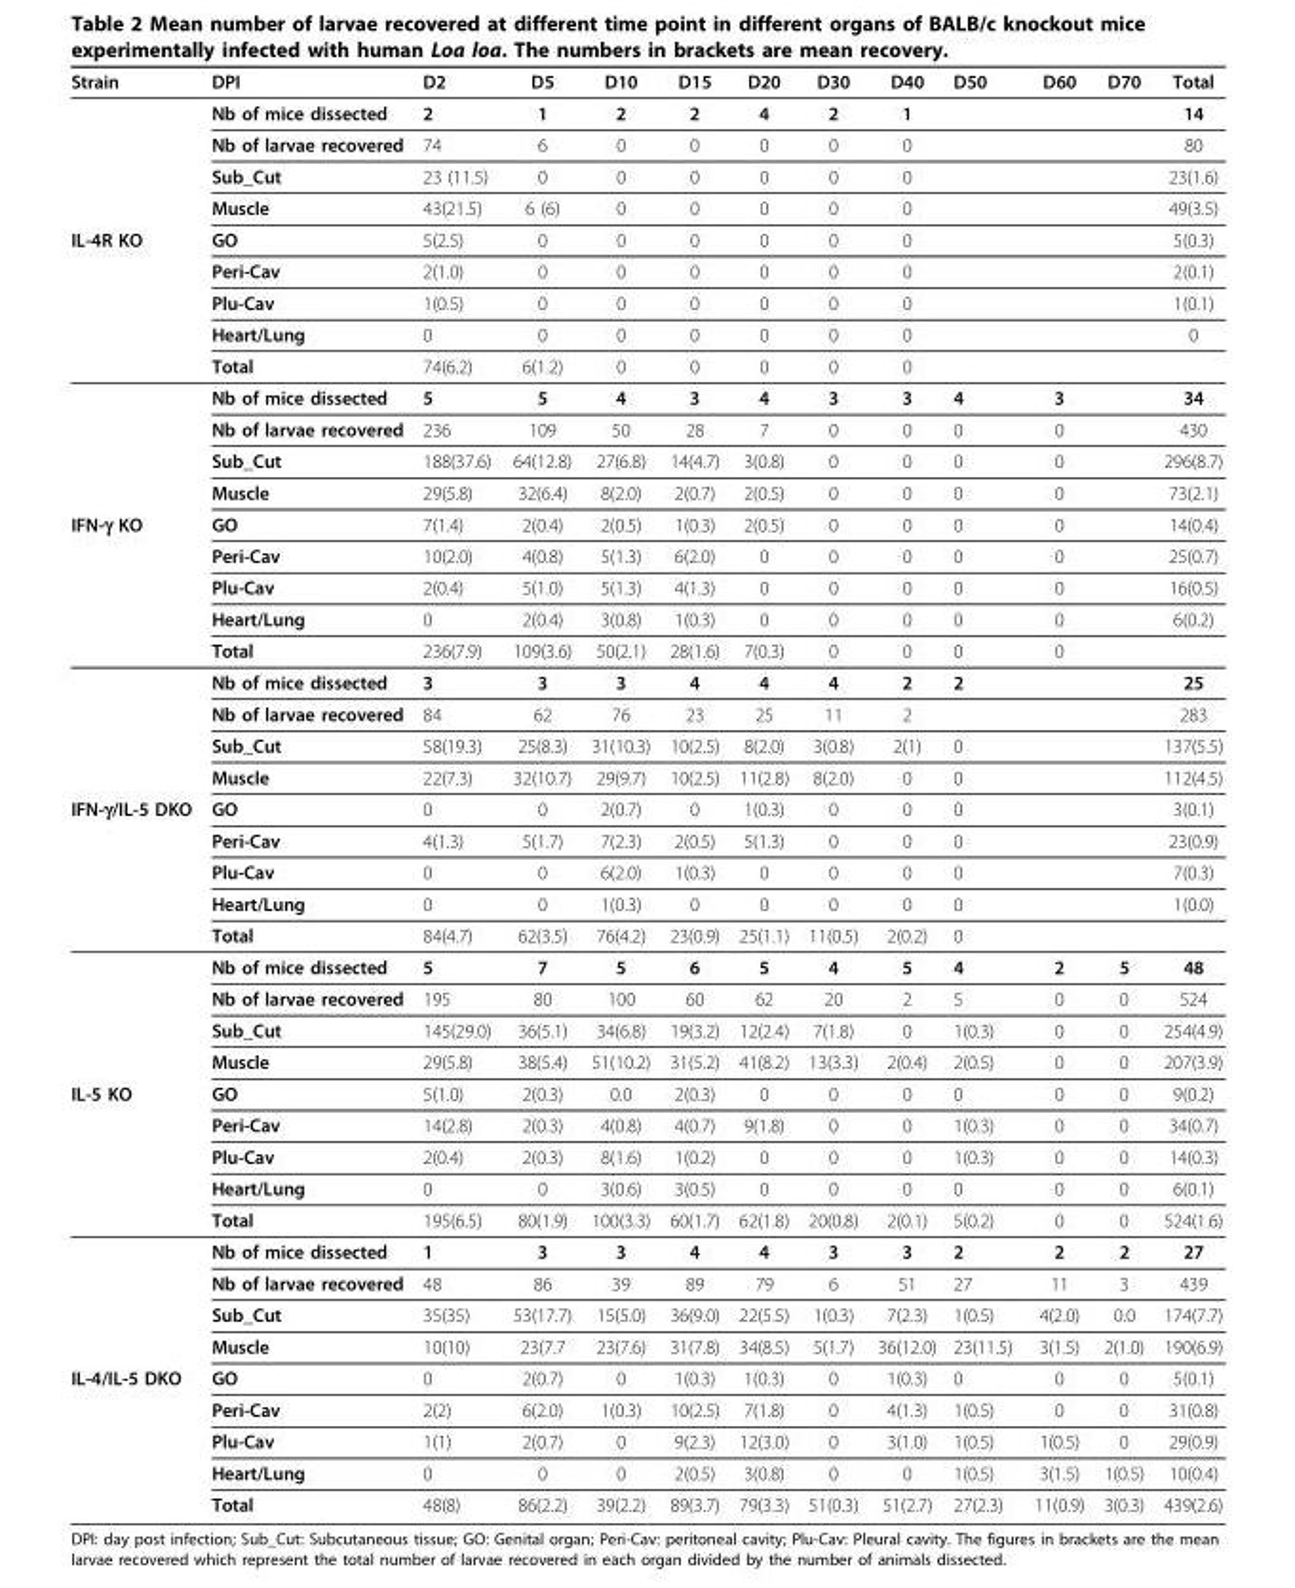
<table><thead><tr><td>Strain</td><td>DPI</td><td>D2</td><td>D5</td><td>D10</td><td>D15</td><td>D20</td><td>D30</td><td>D40</td><td>D50</td><td>D60</td><td>D70</td><td>Total</td></tr></thead><tbody><tr><td></td><td>Nb of mice dissected</td><td>2</td><td>1</td><td>2</td><td>2</td><td>4</td><td>2</td><td>1</td><td></td><td></td><td></td><td>14</td></tr><tr><td></td><td>Nb of larvae recovered</td><td>74</td><td>6</td><td>0</td><td>0</td><td>0</td><td>0</td><td>0</td><td></td><td></td><td></td><td>80</td></tr><tr><td></td><td>Sub_Cut</td><td>23 (11.5)</td><td>0</td><td>0</td><td>0</td><td>0</td><td>0</td><td>0</td><td></td><td></td><td></td><td>23(1.6)</td></tr><tr><td></td><td>Muscle</td><td>43(21.5)</td><td>6 (6)</td><td>0</td><td>0</td><td>0</td><td>0</td><td>0</td><td></td><td></td><td></td><td>49(3.5)</td></tr><tr><td rowspan="9">IL-4R KO</td><td>GO</td><td>5(2.5)</td><td>0</td><td>0</td><td>0</td><td>0</td><td>0</td><td>0</td><td></td><td></td><td></td><td>5(0.3)</td></tr><tr><td>Peri-Cav</td><td>2(1.0)</td><td>0</td><td>0</td><td>0</td><td>0</td><td>0</td><td>0</td><td></td><td></td><td></td><td>2(0.1)</td></tr><tr><td>Plu-Cav</td><td>1(0.5)</td><td>0</td><td>0</td><td>0</td><td>0</td><td>0</td><td>0</td><td></td><td></td><td></td><td>1(0.1)</td></tr><tr><td>Heart/Lung</td><td>0</td><td>0</td><td>0</td><td>0</td><td>0</td><td>0</td><td>0</td><td></td><td></td><td></td><td>0</td></tr><tr><td>Total</td><td>74(6.2)</td><td>6(1.2)</td><td>0</td><td>0</td><td>0</td><td>0</td><td>0</td><td></td><td></td><td></td><td></td></tr><tr><td>Nb of mice dissected</td><td>5</td><td>5</td><td>4</td><td>3</td><td>4</td><td>3</td><td>3</td><td>4</td><td>3</td><td></td><td>34</td></tr><tr><td>Nb of larvae recovered</td><td>236</td><td>109</td><td>50</td><td>28</td><td>7</td><td>0</td><td>0</td><td>0</td><td>0</td><td></td><td>430</td></tr><tr><td>Sub_Cut</td><td>188(37.6)</td><td>64(12.8)</td><td>27(6.8)</td><td>14(4.7)</td><td>3(0.8)</td><td>0</td><td>0</td><td>0</td><td>0</td><td></td><td>296(8.7)</td></tr><tr><td>Muscle</td><td>29(5.8)</td><td>32(6.4)</td><td>8(2.0)</td><td>2(0.7)</td><td>2(0.5)</td><td>0</td><td>0</td><td>0</td><td>0</td><td></td><td>73(2.1)</td></tr><tr><td rowspan="9">IFN-γ KO</td><td>GO</td><td>7(1.4)</td><td>2(0.4)</td><td>2(0.5)</td><td>1(0.3)</td><td>2(0.5)</td><td>0</td><td>0</td><td>0</td><td>0</td><td></td><td>14(0.4)</td></tr><tr><td>Peri-Cav</td><td>10(2.0)</td><td>4(0.8)</td><td>5(1.3)</td><td>6(2.0)</td><td>0</td><td>0</td><td>0</td><td>0</td><td>0</td><td></td><td>25(0.7)</td></tr><tr><td>Plu-Cav</td><td>2(0.4)</td><td>5(1.0)</td><td>5(1.3)</td><td>4(1.3)</td><td>0</td><td>0</td><td>0</td><td>0</td><td>0</td><td></td><td>16(0.5)</td></tr><tr><td>Heart/Lung</td><td>0</td><td>2(0.4)</td><td>3(0.8)</td><td>1(0.3)</td><td>0</td><td>0</td><td>0</td><td>0</td><td>0</td><td></td><td>6(0.2)</td></tr><tr><td>Total</td><td>236(7.9)</td><td>109(3.6)</td><td>50(2.1)</td><td>28(1.6)</td><td>7(0.3)</td><td>0</td><td>0</td><td>0</td><td>0</td><td></td><td></td></tr><tr><td>Nb of mice dissected</td><td>3</td><td>3</td><td>3</td><td>4</td><td>4</td><td>4</td><td>2</td><td>2</td><td></td><td></td><td>25</td></tr><tr><td>Nb of larvae recovered</td><td>84</td><td>62</td><td>76</td><td>23</td><td>25</td><td>11</td><td>2</td><td></td><td></td><td></td><td>283</td></tr><tr><td>Sub_Cut</td><td>58(19.3)</td><td>25(8.3)</td><td>31(10.3)</td><td>10(2.5)</td><td>8(2.0)</td><td>3(0.8)</td><td>2(1)</td><td>0</td><td></td><td></td><td>137(5.5)</td></tr><tr><td>Muscle</td><td>22(7.3)</td><td>32(10.7)</td><td>29(9.7)</td><td>10(2.5)</td><td>11(2.8)</td><td>8(2.0)</td><td>0</td><td>0</td><td></td><td></td><td>112(4.5)</td></tr><tr><td rowspan="9">IFN-γ/IL-5 DKO</td><td>GO</td><td>0</td><td>0</td><td>2(0.7)</td><td>0</td><td>1(0.3)</td><td>0</td><td>0</td><td>0</td><td></td><td></td><td>3(0.1)</td></tr><tr><td>Peri-Cav</td><td>4(1.3)</td><td>5(1.7)</td><td>7(2.3)</td><td>2(0.5)</td><td>5(1.3)</td><td>0</td><td>0</td><td>0</td><td></td><td></td><td>23(0.9)</td></tr><tr><td>Plu-Cav</td><td>0</td><td>0</td><td>6(2.0)</td><td>1(0.3)</td><td>0</td><td>0</td><td>0</td><td>0</td><td></td><td></td><td>7(0.3)</td></tr><tr><td>Heart/Lung</td><td>0</td><td>0</td><td>1(0.3)</td><td>0</td><td>0</td><td>0</td><td>0</td><td>0</td><td></td><td></td><td>1(0.0)</td></tr><tr><td>Total</td><td>84(4.7)</td><td>62(3.5)</td><td>76(4.2)</td><td>23(0.9)</td><td>25(1.1)</td><td>11(0.5)</td><td>2(0.2)</td><td>0</td><td></td><td></td><td></td></tr><tr><td>Nb of mice dissected</td><td>5</td><td>7</td><td>5</td><td>6</td><td>5</td><td>4</td><td>5</td><td>4</td><td>2</td><td>5</td><td>48</td></tr><tr><td>Nb of larvae recovered</td><td>195</td><td>80</td><td>100</td><td>60</td><td>62</td><td>20</td><td>2</td><td>5</td><td>0</td><td>0</td><td>524</td></tr><tr><td>Sub_Cut</td><td>145(29.0)</td><td>36(5.1)</td><td>34(6.8)</td><td>19(3.2)</td><td>12(2.4)</td><td>7(1.8)</td><td>0</td><td>1(0.3)</td><td>0</td><td>0</td><td>254(4.9)</td></tr><tr><td>Muscle</td><td>29(5.8)</td><td>38(5.4)</td><td>51(10.2)</td><td>31(5.2)</td><td>41(8.2)</td><td>13(3.3)</td><td>2(0.4)</td><td>2(0.5)</td><td>0</td><td>0</td><td>207(3.9)</td></tr><tr><td rowspan="9">IL-5 KO</td><td>GO</td><td>5(1.0)</td><td>2(0.3)</td><td>0.0</td><td>2(0.3)</td><td>0</td><td>0</td><td>0</td><td>0</td><td>0</td><td>0</td><td>9(0.2)</td></tr><tr><td>Peri-Cav</td><td>14(2.8)</td><td>2(0.3)</td><td>4(0.8)</td><td>4(0.7)</td><td>9(1.8)</td><td>0</td><td>0</td><td>1(0.3)</td><td>0</td><td>0</td><td>34(0.7)</td></tr><tr><td>Plu-Cav</td><td>2(0.4)</td><td>2(0.3)</td><td>8(1.6)</td><td>1(0.2)</td><td>0</td><td>0</td><td>0</td><td>1(0.3)</td><td>0</td><td>0</td><td>14(0.3)</td></tr><tr><td>Heart/Lung</td><td>0</td><td>0</td><td>3(0.6)</td><td>3(0.5)</td><td>0</td><td>0</td><td>0</td><td>0</td><td>0</td><td>0</td><td>6(0.1)</td></tr><tr><td>Total</td><td>195(6.5)</td><td>80(1.9)</td><td>100(3.3)</td><td>60(1.7)</td><td>62(1.8)</td><td>20(0.8)</td><td>2(0.1)</td><td>5(0.2)</td><td>0</td><td>0</td><td>524(1.6)</td></tr><tr><td>Nb of mice dissected</td><td>1</td><td>3</td><td>3</td><td>4</td><td>4</td><td>3</td><td>3</td><td>2</td><td>2</td><td>2</td><td>27</td></tr><tr><td>Nb of larvae recovered</td><td>48</td><td>86</td><td>39</td><td>89</td><td>79</td><td>6</td><td>51</td><td>27</td><td>11</td><td>3</td><td>439</td></tr><tr><td>Sub_Cut</td><td>35(35)</td><td>53(17.7)</td><td>15(5.0)</td><td>36(9.0)</td><td>22(5.5)</td><td>1(0.3)</td><td>7(2.3)</td><td>1(0.5)</td><td>4(2.0)</td><td>0.0</td><td>174(7.7)</td></tr><tr><td>Muscle</td><td>10(10)</td><td>23(7.7</td><td>23(7.6)</td><td>31(7.8)</td><td>34(8.5)</td><td>5(1.7)</td><td>36(12.0)</td><td>23(11.5)</td><td>3(1.5)</td><td>2(1.0)</td><td>190(6.9)</td></tr><tr><td rowspan="5">IL-4/IL-5 DKO</td><td>GO</td><td>0</td><td>2(0.7)</td><td>0</td><td>1(0.3)</td><td>1(0.3)</td><td>0</td><td>1(0.3)</td><td>0</td><td>0</td><td>0</td><td>5(0.1)</td></tr><tr><td>Peri-Cav</td><td>2(2)</td><td>6(2.0)</td><td>1(0.3)</td><td>10(2.5)</td><td>7(1.8)</td><td>0</td><td>4(1.3)</td><td>1(0.5)</td><td>0</td><td>0</td><td>31(0.8)</td></tr><tr><td>Plu-Cav</td><td>1(1)</td><td>2(0.7)</td><td>0</td><td>9(2.3)</td><td>12(3.0)</td><td>0</td><td>3(1.0)</td><td>1(0.5)</td><td>1(0.5)</td><td>0</td><td>29(0.9)</td></tr><tr><td>Heart/Lung</td><td>0</td><td>0</td><td>0</td><td>2(0.5)</td><td>3(0.8)</td><td>0</td><td>0</td><td>1(0.5)</td><td>3(1.5)</td><td>1(0.5)</td><td>10(0.4)</td></tr><tr><td>Total</td><td>48(8)</td><td>86(2.2)</td><td>39(2.2)</td><td>89(3.7)</td><td>79(3.3)</td><td>51(0.3)</td><td>51(2.7)</td><td>27(2.3)</td><td>11(0.9)</td><td>3(0.3)</td><td>439(2.6)</td></tr></tbody></table>